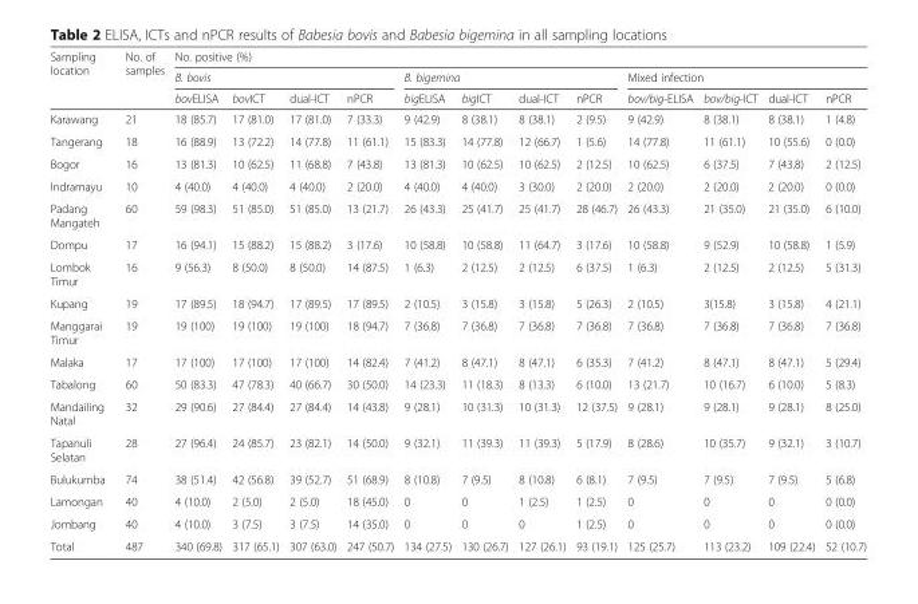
<table><thead><tr><td rowspan="3">Sampling location</td><td rowspan="3">No. of samples</td><td colspan="12">No. positive (%)</td></tr><tr><td colspan="4">B. bovis</td><td colspan="4">B. bigemina</td><td colspan="4">Mixed infection</td></tr><tr><td>bovELISA</td><td>bovICT</td><td>dual-ICT</td><td>nPCR</td><td>bigELISA</td><td>bigICT</td><td>dual-ICT</td><td>nPCR</td><td>bov/big-ELISA</td><td>bov/big-ICT</td><td>dual-ICT</td><td>nPCR</td></tr></thead><tbody><tr><td>Karawang</td><td>21</td><td>18 (85.7)</td><td>17 (81.0)</td><td>17 (81.0)</td><td>7 (33.3)</td><td>9 (42.9)</td><td>8 (38.1)</td><td>8 (38.1)</td><td>2 (9.5)</td><td>9 (42.9)</td><td>8 (38.1)</td><td>8 (38.1)</td><td>1 (4.8)</td></tr><tr><td>Tangerang</td><td>18</td><td>16 (88.9)</td><td>13 (72.2)</td><td>14 (77.8)</td><td>11 (61.1)</td><td>15 (83.3)</td><td>14 (77.8)</td><td>12 (66.7)</td><td>1 (5.6)</td><td>14 (77.8)</td><td>11 (61.1)</td><td>10 (55.6)</td><td>0 (0.0)</td></tr><tr><td>Bogor</td><td>16</td><td>13 (81.3)</td><td>10 (62.5)</td><td>11 (68.8)</td><td>7 (43.8)</td><td>13 (81.3)</td><td>10 (62.5)</td><td>10 (62.5)</td><td>2 (12.5)</td><td>10 (62.5)</td><td>6 (37.5)</td><td>7 (43.8)</td><td>2 (12.5)</td></tr><tr><td>Indramayu</td><td>10</td><td>4 (40.0)</td><td>4 (40.0)</td><td>4 (40.0)</td><td>2 (20.0)</td><td>4 (40.0)</td><td>4 (40.0)</td><td>3 (30.0)</td><td>2 (20.0)</td><td>2 (20.0)</td><td>2 (20.0)</td><td>2 (20.0)</td><td>0 (0.0)</td></tr><tr><td>Padang Mangateh</td><td>60</td><td>59 (98.3)</td><td>51 (85.0)</td><td>51 (85.0)</td><td>13 (21.7)</td><td>26 (43.3)</td><td>25 (41.7)</td><td>25 (41.7)</td><td>28 (46.7)</td><td>26 (43.3)</td><td>21 (35.0)</td><td>21 (35.0)</td><td>6 (10.0)</td></tr><tr><td>Dompu</td><td>17</td><td>16 (94.1)</td><td>15 (88.2)</td><td>15 (88.2)</td><td>3 (17.6)</td><td>10 (58.8)</td><td>10 (58.8)</td><td>11 (64.7)</td><td>3 (17.6)</td><td>10 (58.8)</td><td>9 (52.9)</td><td>10 (58.8)</td><td>1 (5.9)</td></tr><tr><td>Lombok Timur</td><td>16</td><td>9 (56.3)</td><td>8 (50.0)</td><td>8 (50.0)</td><td>14 (87.5)</td><td>1 (6.3)</td><td>2 (12.5)</td><td>2 (12.5)</td><td>6 (37.5)</td><td>1 (6.3)</td><td>2 (12.5)</td><td>2 (12.5)</td><td>5 (31.3)</td></tr><tr><td>Kupang</td><td>19</td><td>17 (89.5)</td><td>18 (94.7)</td><td>17 (89.5)</td><td>17 (89.5)</td><td>2 (10.5)</td><td>3 (15.8)</td><td>3 (15.8)</td><td>5 (26.3)</td><td>2 (10.5)</td><td>3(15.8)</td><td>3 (15.8)</td><td>4 (21.1)</td></tr><tr><td>Manggarai Timur</td><td>19</td><td>19 (100)</td><td>19 (100)</td><td>19 (100)</td><td>18 (94.7)</td><td>7 (36.8)</td><td>7 (36.8)</td><td>7 (36.8)</td><td>7 (36.8)</td><td>7 (36.8)</td><td>7 (36.8)</td><td>7 (36.8)</td><td>7 (36.8)</td></tr><tr><td>Malaka</td><td>17</td><td>17 (100)</td><td>17 (100)</td><td>17 (100)</td><td>14 (82.4)</td><td>7 (41.2)</td><td>8 (47.1)</td><td>8 (47.1)</td><td>6 (35.3)</td><td>7 (41.2)</td><td>8 (47.1)</td><td>8 (47.1)</td><td>5 (29.4)</td></tr><tr><td>Tabalong</td><td>60</td><td>50 (83.3)</td><td>47 (78.3)</td><td>40 (66.7)</td><td>30 (50.0)</td><td>14 (23.3)</td><td>11 (18.3)</td><td>8 (13.3)</td><td>6 (10.0)</td><td>13 (21.7)</td><td>10 (16.7)</td><td>6 (10.0)</td><td>5 (8.3)</td></tr><tr><td>Mandailing Natal</td><td>32</td><td>29 (90.6)</td><td>27 (84.4)</td><td>27 (84.4)</td><td>14 (43.8)</td><td>9 (28.1)</td><td>10 (31.3)</td><td>10 (31.3)</td><td>12 (37.5)</td><td>9 (28.1)</td><td>9 (28.1)</td><td>9 (28.1)</td><td>8 (25.0)</td></tr><tr><td>Tapanuli Selatan</td><td>28</td><td>27 (96.4)</td><td>24 (85.7)</td><td>23 (82.1)</td><td>14 (50.0)</td><td>9 (32.1)</td><td>11 (39.3)</td><td>11 (39.3)</td><td>5 (17.9)</td><td>8 (28.6)</td><td>10 (35.7)</td><td>9 (32.1)</td><td>3 (10.7)</td></tr><tr><td>Bulukumba</td><td>74</td><td>38 (51.4)</td><td>42 (56.8)</td><td>39 (52.7)</td><td>51 (68.9)</td><td>8 (10.8)</td><td>7 (9.5)</td><td>8 (10.8)</td><td>6 (8.1)</td><td>7 (9.5)</td><td>7 (9.5)</td><td>7 (9.5)</td><td>5 (6.8)</td></tr><tr><td>Lamongan</td><td>40</td><td>4 (10.0)</td><td>2 (5.0)</td><td>2 (5.0)</td><td>18 (45.0)</td><td>0</td><td>0</td><td>1 (2.5)</td><td>1 (2.5)</td><td>0</td><td>0</td><td>0</td><td>0 (0.0)</td></tr><tr><td>Jombang</td><td>40</td><td>4 (10.0)</td><td>3 (7.5)</td><td>3 (7.5)</td><td>14 (35.0)</td><td>0</td><td>0</td><td>0</td><td>1 (2.5)</td><td>0</td><td>0</td><td>0</td><td>0 (0.0)</td></tr><tr><td>Total</td><td>487</td><td>340 (69.8)</td><td>317 (65.1)</td><td>307 (63.0)</td><td>247 (50.7)</td><td>134 (27.5)</td><td>130 (26.7)</td><td>127 (26.1)</td><td>93 (19.1)</td><td>125 (25.7)</td><td>113 (23.2)</td><td>109 (22.4)</td><td>52 (10.7)</td></tr></tbody></table>